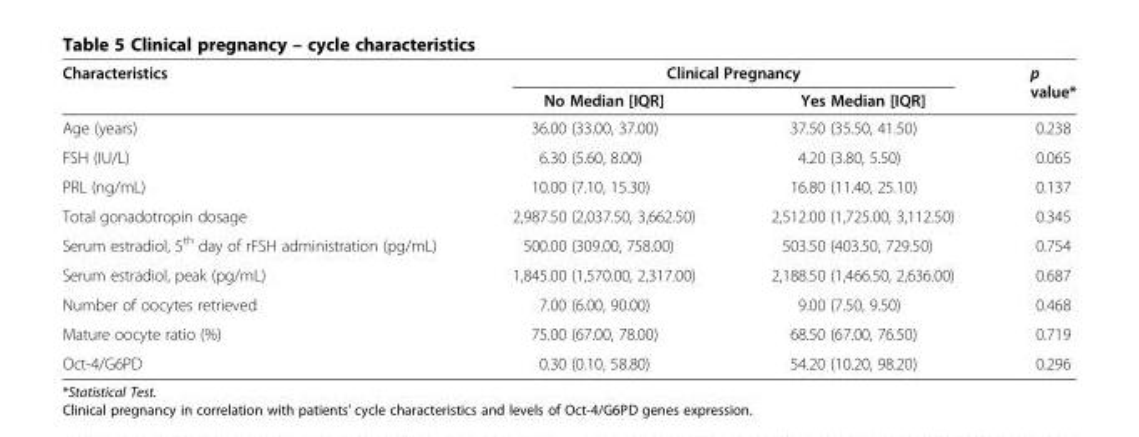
<table><thead><tr><td rowspan="2">Characteristics</td><td colspan="2">Clinical Pregnancy</td><td rowspan="2">p value*</td></tr><tr><td>No Median [IQR]</td><td>Yes Median [IQR]</td></tr></thead><tbody><tr><td>Age (years)</td><td>36.00 (33.00, 37.00)</td><td>37.50 (35.50, 41.50)</td><td>0.238</td></tr><tr><td>FSH (IU/L)</td><td>6.30 (5.60, 8.00)</td><td>4.20 (3.80, 5.50)</td><td>0.065</td></tr><tr><td>PRL (ng/mL)</td><td>10.00 (7.10, 15.30)</td><td>16.80 (11.40, 25.10)</td><td>0.137</td></tr><tr><td>Total gonadotropin dosage</td><td>2,987.50 (2,037.50, 3,662.50)</td><td>2,512.00 (1,725.00, 3,112.50)</td><td>0.345</td></tr><tr><td>Serum estradiol, 5<sup>th</sup> day of rFSH administration (pg/mL)</td><td>500.00 (309.00, 758.00)</td><td>503.50 (403.50, 729.50)</td><td>0.754</td></tr><tr><td>Serum estradiol, peak (pg/mL)</td><td>1,845.00 (1,570.00, 2,317.00)</td><td>2,188.50 (1,466.50, 2,636.00)</td><td>0.687</td></tr><tr><td>Number of oocytes retrieved</td><td>7.00 (6.00, 90.00)</td><td>9.00 (7.50, 9.50)</td><td>0.468</td></tr><tr><td>Mature oocyte ratio (%)</td><td>75.00 (67.00, 78.00)</td><td>68.50 (67.00, 76.50)</td><td>0.719</td></tr><tr><td>Oct-4/G6PD</td><td>0.30 (0.10, 58.80)</td><td>54.20 (10.20, 98.20)</td><td>0.296</td></tr></tbody></table>